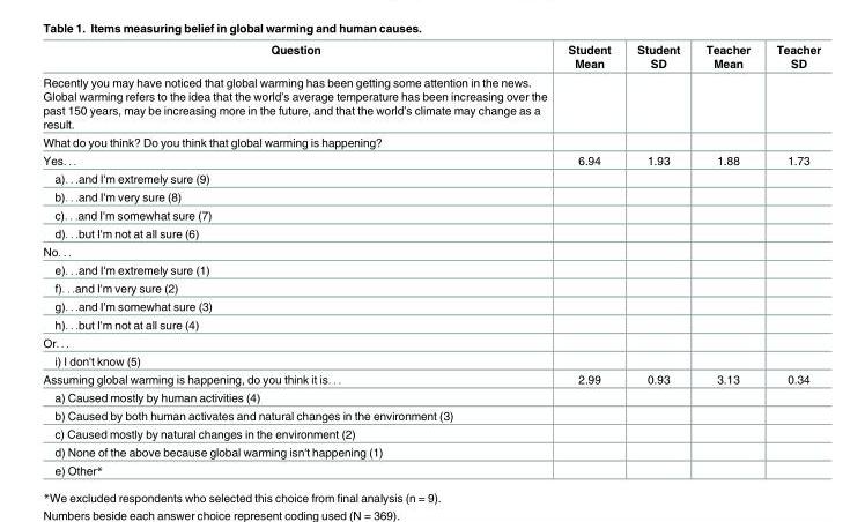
<table><thead><tr><td>Question</td><td>Student Mean</td><td>Student SD</td><td>Teacher Mean</td><td>Teacher SD</td></tr></thead><tbody><tr><td colspan="5">Recently you may have noticed that global warming has been getting some attention in the news. Global warming refers to the idea that the world’s average temperature has been increasing over the past 150 years, may be increasing more in the future, and that the world’s climate may change as a result.</td></tr><tr><td colspan="5">What do you think? Do you think that global warming is happening?</td></tr><tr><td>Yes. . .</td><td>6.94</td><td>1.93</td><td>1.88</td><td>1.73</td></tr><tr><td colspan="5">a). . .and I&#x27;m extremely sure (9)</td></tr><tr><td colspan="5">b). . .and I&#x27;m very sure (8)</td></tr><tr><td colspan="5">c). . .and I&#x27;m somewhat sure (7)</td></tr><tr><td colspan="5">d). . .but I&#x27;m not at all sure (6)</td></tr><tr><td colspan="5">No. . .</td></tr><tr><td colspan="5">e). . .and I&#x27;m extremely sure (1)</td></tr><tr><td colspan="5">f). . .and I&#x27;m very sure (2)</td></tr><tr><td colspan="5">g). . .and I&#x27;m somewhat sure (3)</td></tr><tr><td colspan="5">h). . .but I&#x27;m not at all sure (4)</td></tr><tr><td colspan="5">Or. . .</td></tr><tr><td colspan="5">i) I don&#x27;t know (5)</td></tr><tr><td>Assuming global warming is happening, do you think it is. . .</td><td>2.99</td><td>0.93</td><td>3.13</td><td>0.34</td></tr><tr><td colspan="5">a) Caused mostly by human activities (4)</td></tr><tr><td colspan="5">b) Caused by both human activates and natural changes in the environment (3)</td></tr><tr><td colspan="5">c) Caused mostly by natural changes in the environment (2)</td></tr><tr><td colspan="5">d) None of the above because global warming isn&#x27;t happening (1)</td></tr><tr><td>e) Other*</td><td></td><td></td><td></td><td></td></tr></tbody></table>